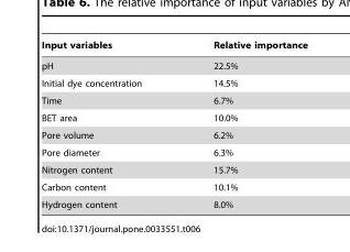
<table><thead><tr><td>Input variables</td><td>Relative importance</td></tr></thead><tbody><tr><td>pH</td><td>22.5%</td></tr><tr><td>Initial dye concentration</td><td>14.5%</td></tr><tr><td>Time</td><td>6.7%</td></tr><tr><td>BET area</td><td>10.0%</td></tr><tr><td>Pore volume</td><td>6.2%</td></tr><tr><td>Pore diameter</td><td>6.3%</td></tr><tr><td>Nitrogen content</td><td>15.7%</td></tr><tr><td>Carbon content</td><td>10.1%</td></tr><tr><td>Hydrogen content</td><td>8.0%</td></tr></tbody></table>